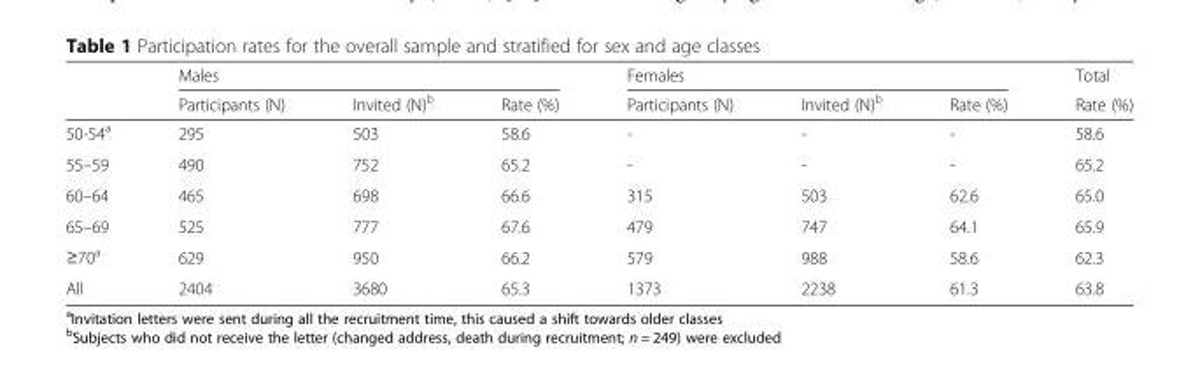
<table><thead><tr><td rowspan="2"></td><td colspan="3">Males</td><td colspan="3">Females</td><td rowspan="2">Total Rate (%)</td></tr><tr><td>Participants (N)</td><td>Invited (N)<sup>b</sup></td><td>Rate (%)</td><td>Participants (N)</td><td>Invited (N)<sup>b</sup></td><td>Rate (%)</td></tr></thead><tbody><tr><td>50-54<sup>a</sup></td><td>295</td><td>503</td><td>58.6</td><td>-</td><td>-</td><td>-</td><td>58.6</td></tr><tr><td>55–59</td><td>490</td><td>752</td><td>65.2</td><td>-</td><td>-</td><td>-</td><td>65.2</td></tr><tr><td>60–64</td><td>465</td><td>698</td><td>66.6</td><td>315</td><td>503</td><td>62.6</td><td>65.0</td></tr><tr><td>65–69</td><td>525</td><td>777</td><td>67.6</td><td>479</td><td>747</td><td>64.1</td><td>65.9</td></tr><tr><td>≥70<sup>a</sup></td><td>629</td><td>950</td><td>66.2</td><td>579</td><td>988</td><td>58.6</td><td>62.3</td></tr><tr><td>All</td><td>2404</td><td>3680</td><td>65.3</td><td>1373</td><td>2238</td><td>61.3</td><td>63.8</td></tr></tbody></table>